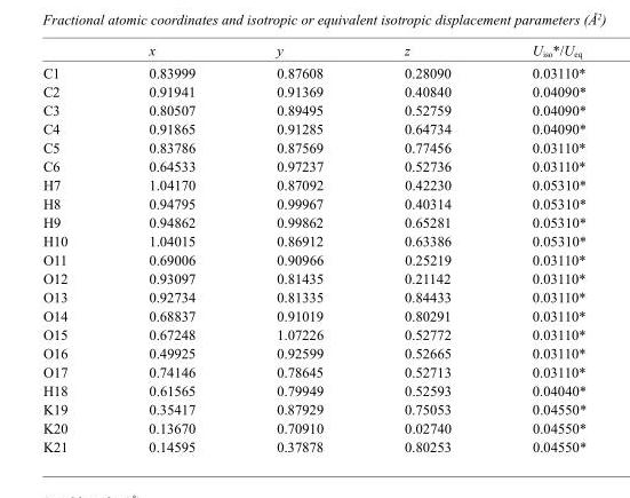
<table><thead><tr><td></td><td>x</td><td>y</td><td>z</td><td>U<sub>iso</sub>*/U<sub>eq</sub></td></tr></thead><tbody><tr><td>C1</td><td>0.83999</td><td>0.87608</td><td>0.28090</td><td>0.03110*</td></tr><tr><td>C2</td><td>0.91941</td><td>0.91369</td><td>0.40840</td><td>0.04090*</td></tr><tr><td>C3</td><td>0.80507</td><td>0.89495</td><td>0.52759</td><td>0.04090*</td></tr><tr><td>C4</td><td>0.91865</td><td>0.91285</td><td>0.64734</td><td>0.04090*</td></tr><tr><td>C5</td><td>0.83786</td><td>0.87569</td><td>0.77456</td><td>0.03110*</td></tr><tr><td>C6</td><td>0.64533</td><td>0.97237</td><td>0.52736</td><td>0.03110*</td></tr><tr><td>H7</td><td>1.04170</td><td>0.87092</td><td>0.42230</td><td>0.05310*</td></tr><tr><td>H8</td><td>0.94795</td><td>0.99967</td><td>0.40314</td><td>0.05310*</td></tr><tr><td>H9</td><td>0.94862</td><td>0.99862</td><td>0.65281</td><td>0.05310*</td></tr><tr><td>H10</td><td>1.04015</td><td>0.86912</td><td>0.63386</td><td>0.05310*</td></tr><tr><td>O11</td><td>0.69006</td><td>0.90966</td><td>0.25219</td><td>0.03110*</td></tr><tr><td>O12</td><td>0.93097</td><td>0.81435</td><td>0.21142</td><td>0.03110*</td></tr><tr><td>O13</td><td>0.92734</td><td>0.81335</td><td>0.84433</td><td>0.03110*</td></tr><tr><td>O14</td><td>0.68837</td><td>0.91019</td><td>0.80291</td><td>0.03110*</td></tr><tr><td>O15</td><td>0.67248</td><td>1.07226</td><td>0.52772</td><td>0.03110*</td></tr><tr><td>O16</td><td>0.49925</td><td>0.92599</td><td>0.52665</td><td>0.03110*</td></tr><tr><td>O17</td><td>0.74146</td><td>0.78645</td><td>0.52713</td><td>0.03110*</td></tr><tr><td>H18</td><td>0.61565</td><td>0.79949</td><td>0.52593</td><td>0.04040*</td></tr><tr><td>K19</td><td>0.35417</td><td>0.87929</td><td>0.75053</td><td>0.04550*</td></tr><tr><td>K20</td><td>0.13670</td><td>0.70910</td><td>0.02740</td><td>0.04550*</td></tr><tr><td>K21</td><td>0.14595</td><td>0.37878</td><td>0.80253</td><td>0.04550*</td></tr></tbody></table>